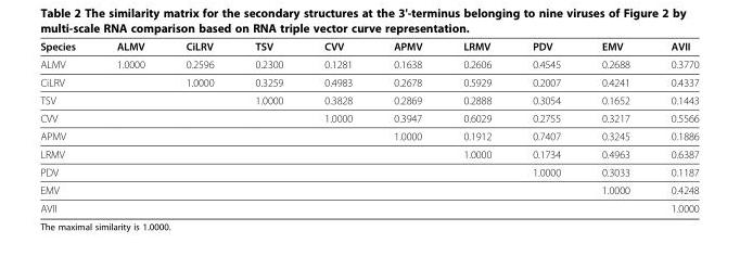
<table><thead><tr><td>Species</td><td>ALMV</td><td>CiLRV</td><td>TSV</td><td>CVV</td><td>APMV</td><td>LRMV</td><td>PDV</td><td>EMV</td><td>AVII</td></tr></thead><tbody><tr><td>ALMV</td><td>1.0000</td><td>0.2596</td><td>0.2300</td><td>0.1281</td><td>0.1638</td><td>0.2606</td><td>0.4545</td><td>0.2688</td><td>0.3770</td></tr><tr><td>CiLRV</td><td></td><td>1.0000</td><td>0.3259</td><td>0.4983</td><td>0.2678</td><td>0.5929</td><td>0.2007</td><td>0.4241</td><td>0.4337</td></tr><tr><td>TSV</td><td></td><td></td><td>1.0000</td><td>0.3828</td><td>0.2869</td><td>0.2888</td><td>0.3054</td><td>0.1652</td><td>0.1443</td></tr><tr><td>CVV</td><td></td><td></td><td></td><td>1.0000</td><td>0.3947</td><td>0.6029</td><td>0.2755</td><td>0.3217</td><td>0.5566</td></tr><tr><td>APMV</td><td></td><td></td><td></td><td></td><td>1.0000</td><td>0.1912</td><td>0.7407</td><td>0.3245</td><td>0.1886</td></tr><tr><td>LRMV</td><td></td><td></td><td></td><td></td><td></td><td>1.0000</td><td>0.1734</td><td>0.4963</td><td>0.6387</td></tr><tr><td>PDV</td><td></td><td></td><td></td><td></td><td></td><td></td><td>1.0000</td><td>0.3033</td><td>0.1187</td></tr><tr><td>EMV</td><td></td><td></td><td></td><td></td><td></td><td></td><td></td><td>1.0000</td><td>0.4248</td></tr><tr><td>AVII</td><td></td><td></td><td></td><td></td><td></td><td></td><td></td><td></td><td>1.0000</td></tr></tbody></table>